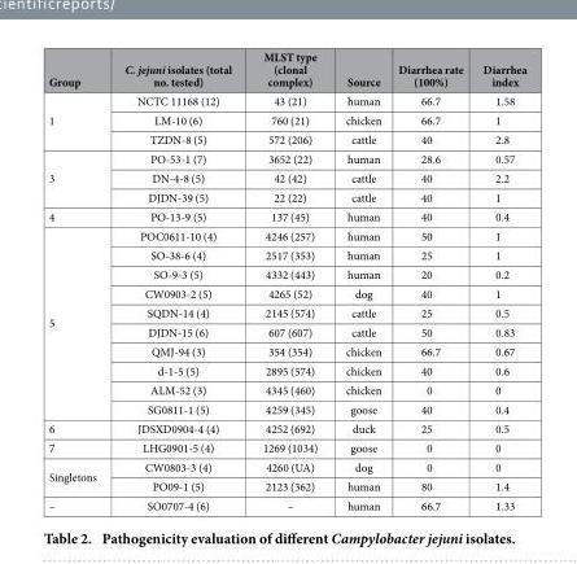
<table><thead><tr><td>Group</td><td>C. jejuni isolates (total no. tested)</td><td>MLST type (clonal complex)</td><td>Source</td><td>Diarrhea rate (100%)</td><td>Diarrhea index</td></tr></thead><tbody><tr><td rowspan="3">1</td><td>NCTC 11168 (12)</td><td>43 (21)</td><td>human</td><td>66.7</td><td>1.58</td></tr><tr><td>LM-10 (6)</td><td>760 (21)</td><td>chicken</td><td>66.7</td><td>1</td></tr><tr><td>TZDN-8 (5)</td><td>572 (206)</td><td>cattle</td><td>40</td><td>2.8</td></tr><tr><td rowspan="3">3</td><td>PO-53-1 (7)</td><td>3652 (22)</td><td>human</td><td>28.6</td><td>0.57</td></tr><tr><td>DN-4-8 (5)</td><td>42 (42)</td><td>cattle</td><td>40</td><td>2.2</td></tr><tr><td>DJDN-39 (5)</td><td>22 (22)</td><td>cattle</td><td>40</td><td>1</td></tr><tr><td>4</td><td>PO-13-9 (5)</td><td>137 (45)</td><td>human</td><td>40</td><td>0.4</td></tr><tr><td rowspan="10">5</td><td>POC0611-10 (4)</td><td>4246 (257)</td><td>human</td><td>50</td><td>1</td></tr><tr><td>SO-38-6 (4)</td><td>2517 (353)</td><td>human</td><td>25</td><td>1</td></tr><tr><td>SO-9-3 (5)</td><td>4332 (443)</td><td>human</td><td>20</td><td>0.2</td></tr><tr><td>CW0903-2 (5)</td><td>4265 (52)</td><td>dog</td><td>40</td><td>1</td></tr><tr><td>SQDN-14 (4)</td><td>2145 (574)</td><td>cattle</td><td>25</td><td>0.5</td></tr><tr><td>DJDN-15 (6)</td><td>607 (607)</td><td>cattle</td><td>50</td><td>0.83</td></tr><tr><td>QMJ-94 (3)</td><td>354 (354)</td><td>chicken</td><td>66.7</td><td>0.67</td></tr><tr><td>d-1-5 (5)</td><td>2895 (574)</td><td>chicken</td><td>40</td><td>0.6</td></tr><tr><td>ALM-52 (3)</td><td>4345 (460)</td><td>chicken</td><td>0</td><td>0</td></tr><tr><td>SG0811-1 (5)</td><td>4259 (345)</td><td>goose</td><td>40</td><td>0.4</td></tr><tr><td>6</td><td>JDSXD0904-4 (4)</td><td>4252 (692)</td><td>duck</td><td>25</td><td>0.5</td></tr><tr><td>7</td><td>LHG0901-5 (4)</td><td>1269 (1034)</td><td>goose</td><td>0</td><td>0</td></tr><tr><td rowspan="2">Singletons</td><td>CW0803-3 (4)</td><td>4260 (UA)</td><td>dog</td><td>0</td><td>0</td></tr><tr><td>PO09-1 (5)</td><td>2123 (362)</td><td>human</td><td>80</td><td>1.4</td></tr><tr><td>–</td><td>SO0707-4 (6)</td><td>–</td><td>human</td><td>66.7</td><td>1.33</td></tr></tbody></table>